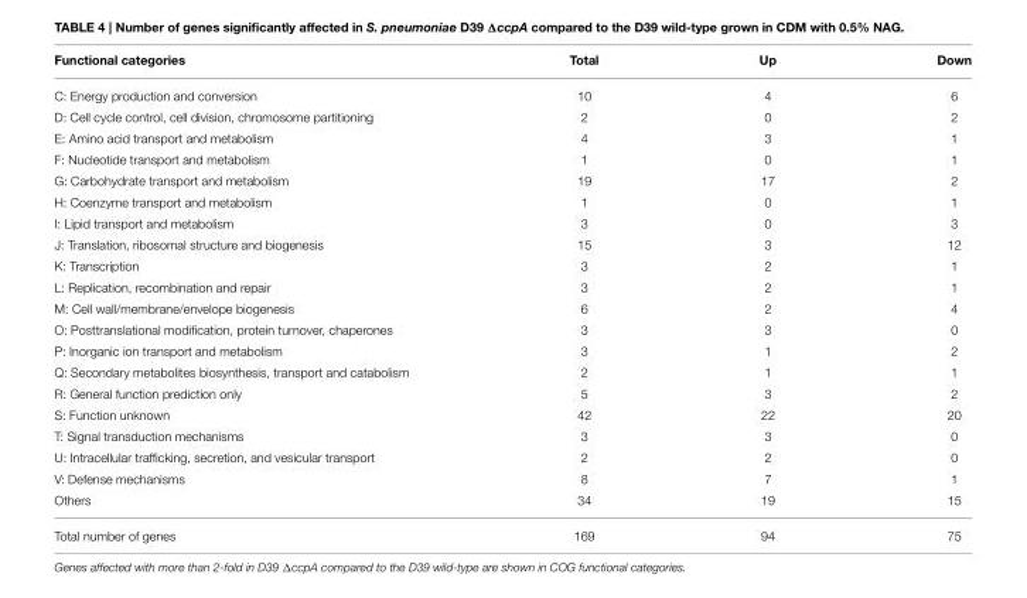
<table><thead><tr><td>Functional categories</td><td>Total</td><td>Up</td><td>Down</td></tr></thead><tbody><tr><td>C: Energy production and conversion</td><td>10</td><td>4</td><td>6</td></tr><tr><td>D: Cell cycle control, cell division, chromosome partitioning</td><td>2</td><td>0</td><td>2</td></tr><tr><td>E: Amino acid transport and metabolism</td><td>4</td><td>3</td><td>1</td></tr><tr><td>F: Nucleotide transport and metabolism</td><td>1</td><td>0</td><td>1</td></tr><tr><td>G: Carbohydrate transport and metabolism</td><td>19</td><td>17</td><td>2</td></tr><tr><td>H: Coenzyme transport and metabolism</td><td>1</td><td>0</td><td>1</td></tr><tr><td>I: Lipid transport and metabolism</td><td>3</td><td>0</td><td>3</td></tr><tr><td>J: Translation, ribosomal structure and biogenesis</td><td>15</td><td>3</td><td>12</td></tr><tr><td>K: Transcription</td><td>3</td><td>2</td><td>1</td></tr><tr><td>L: Replication, recombination and repair</td><td>3</td><td>2</td><td>1</td></tr><tr><td>M: Cell wall/membrane/envelope biogenesis</td><td>6</td><td>2</td><td>4</td></tr><tr><td>O: Posttranslational modification, protein turnover, chaperones</td><td>3</td><td>3</td><td>0</td></tr><tr><td>P: Inorganic ion transport and metabolism</td><td>3</td><td>1</td><td>2</td></tr><tr><td>Q: Secondary metabolites biosynthesis, transport and catabolism</td><td>2</td><td>1</td><td>1</td></tr><tr><td>R: General function prediction only</td><td>5</td><td>3</td><td>2</td></tr><tr><td>S: Function unknown</td><td>42</td><td>22</td><td>20</td></tr><tr><td>T: Signal transduction mechanisms</td><td>3</td><td>3</td><td>0</td></tr><tr><td>U: Intracellular trafficking, secretion, and vesicular transport</td><td>2</td><td>2</td><td>0</td></tr><tr><td>V: Defense mechanisms</td><td>8</td><td>7</td><td>1</td></tr><tr><td>Others</td><td>34</td><td>19</td><td>15</td></tr><tr><td>Total number of genes</td><td>169</td><td>94</td><td>75</td></tr></tbody></table>